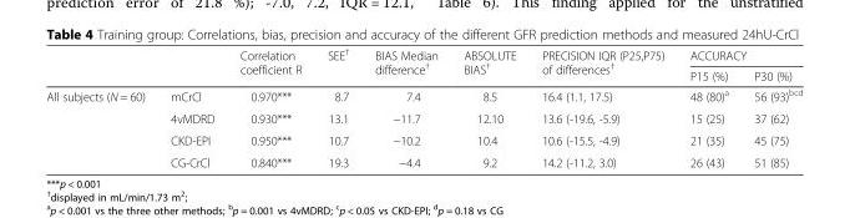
<table><thead><tr><td rowspan="2"></td><td rowspan="2"></td><td rowspan="2">Correlation coefficient R</td><td rowspan="2">SEE<sup>†</sup></td><td rowspan="2">BIAS Median difference<sup>†</sup></td><td rowspan="2">ABSOLUTE BIAS<sup>†</sup></td><td rowspan="2">PRECISION IQR (P25,P75) of differences<sup>†</sup></td><td colspan="2">ACCURACY</td></tr><tr><td>P15 (%)</td><td>P30 (%)</td></tr></thead><tbody><tr><td rowspan="4">All subjects (N = 60)</td><td>mCrCl</td><td>0.970***</td><td>8.7</td><td>7.4</td><td>8.5</td><td>16.4 (1.1, 17.5)</td><td>48 (80)<sup>a</sup></td><td>56 (93)<sup>bcd</sup></td></tr><tr><td>4vMDRD</td><td>0.930***</td><td>13.1</td><td>−11.7</td><td>12.10</td><td>13.6 (-19.6, -5.9)</td><td>15 (25)</td><td>37 (62)</td></tr><tr><td>CKD-EPI</td><td>0.950***</td><td>10.7</td><td>−10.2</td><td>10.4</td><td>10.6 (-15.5, -4.9)</td><td>21 (35)</td><td>45 (75)</td></tr><tr><td>CG-CrCl</td><td>0.840***</td><td>19.3</td><td>−4.4</td><td>9.2</td><td>14.2 (-11.2, 3.0)</td><td>26 (43)</td><td>51 (85)</td></tr></tbody></table>